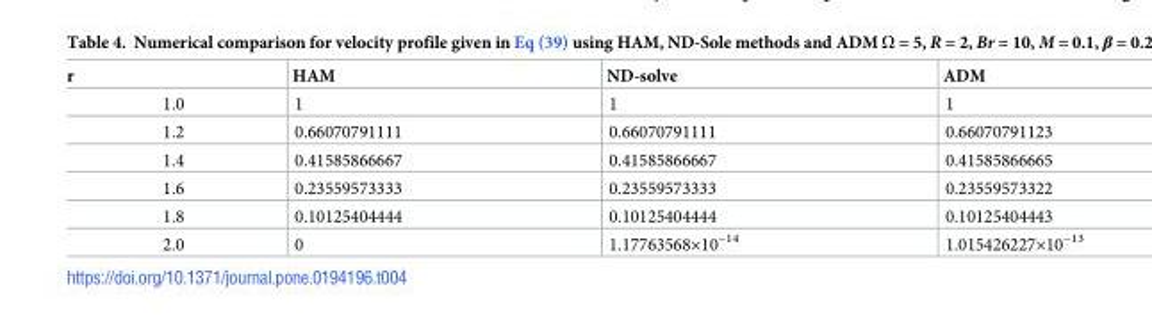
<table><thead><tr><td>r</td><td>HAM</td><td>ND-solve</td><td>ADM</td></tr></thead><tbody><tr><td>1.0</td><td>1</td><td>1</td><td>1</td></tr><tr><td>1.2</td><td>0.66070791111</td><td>0.66070791111</td><td>0.66070791123</td></tr><tr><td>1.4</td><td>0.41585866667</td><td>0.41585866667</td><td>0.41585866665</td></tr><tr><td>1.6</td><td>0.23559573333</td><td>0.23559573333</td><td>0.23559573322</td></tr><tr><td>1.8</td><td>0.10125404444</td><td>0.10125404444</td><td>0.10125404443</td></tr><tr><td>2.0</td><td>0</td><td>1.17763568×10<sup>−14</sup></td><td>1.015426227×10<sup>−13</sup></td></tr></tbody></table>